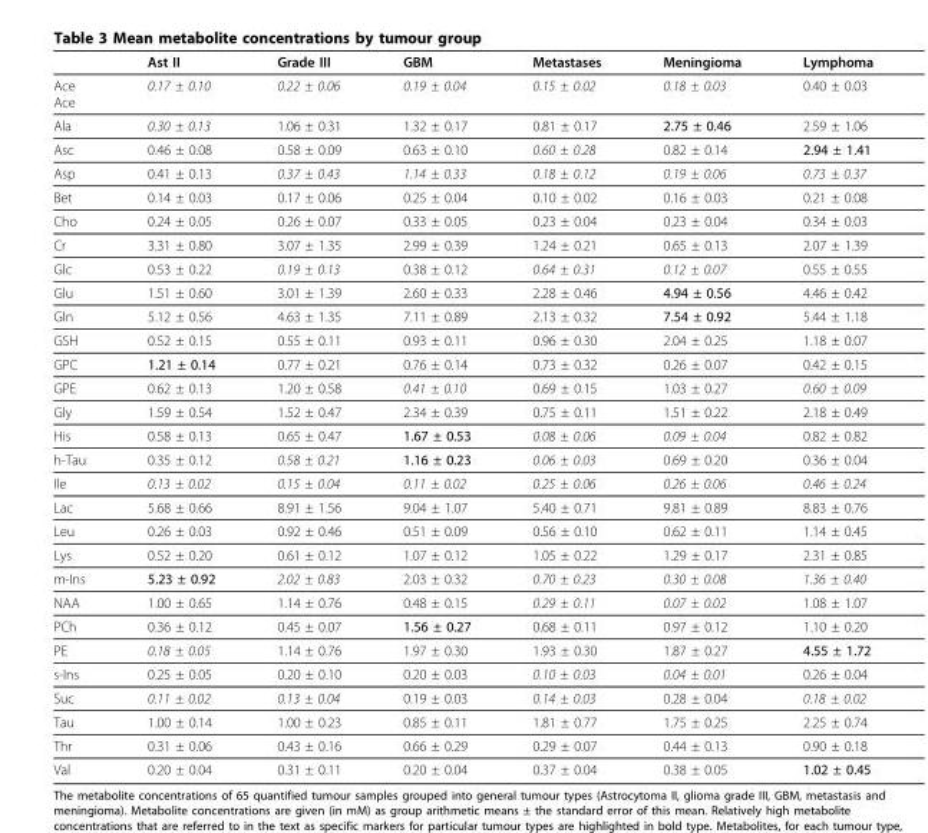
<table><thead><tr><td></td><td>Ast II</td><td>Grade III</td><td>GBM</td><td>Metastases</td><td>Meningioma</td><td>Lymphoma</td></tr></thead><tbody><tr><td>Ace Ace</td><td>0.17 ± 0.10</td><td>0.22 ± 0.06</td><td>0.19 ± 0.04</td><td>0.15 ± 0.02</td><td>0.18 ± 0.03</td><td>0.40 ± 0.03</td></tr><tr><td>Ala</td><td>0.30 ± 0.13</td><td>1.06 ± 0.31</td><td>1.32 ± 0.17</td><td>0.81 ± 0.17</td><td>2.75 ± 0.46</td><td>2.59 ± 1.06</td></tr><tr><td>Asc</td><td>0.46 ± 0.08</td><td>0.58 ± 0.09</td><td>0.63 ± 0.10</td><td>0.60 ± 0.28</td><td>0.82 ± 0.14</td><td>2.94 ± 1.41</td></tr><tr><td>Asp</td><td>0.41 ± 0.13</td><td>0.37 ± 0.43</td><td>1.14 ± 0.33</td><td>0.18 ± 0.12</td><td>0.19 ± 0.06</td><td>0.73 ± 0.37</td></tr><tr><td>Bet</td><td>0.14 ± 0.03</td><td>0.17 ± 0.06</td><td>0.25 ± 0.04</td><td>0.10 ± 0.02</td><td>0.16 ± 0.03</td><td>0.21 ± 0.08</td></tr><tr><td>Cho</td><td>0.24 ± 0.05</td><td>0.26 ± 0.07</td><td>0.33 ± 0.05</td><td>0.23 ± 0.04</td><td>0.23 ± 0.04</td><td>0.34 ± 0.03</td></tr><tr><td>Cr</td><td>3.31 ± 0.80</td><td>3.07 ± 1.35</td><td>2.99 ± 0.39</td><td>1.24 ± 0.21</td><td>0.65 ± 0.13</td><td>2.07 ± 1.39</td></tr><tr><td>Glc</td><td>0.53 ± 0.22</td><td>0.19 ± 0.13</td><td>0.38 ± 0.12</td><td>0.64 ± 0.31</td><td>0.12 ± 0.07</td><td>0.55 ± 0.55</td></tr><tr><td>Glu</td><td>1.51 ± 0.60</td><td>3.01 ± 1.39</td><td>2.60 ± 0.33</td><td>2.28 ± 0.46</td><td>4.94 ± 0.56</td><td>4.46 ± 0.42</td></tr><tr><td>Gln</td><td>5.12 ± 0.56</td><td>4.63 ± 1.35</td><td>7.11 ± 0.89</td><td>2.13 ± 0.32</td><td>7.54 ± 0.92</td><td>5.44 ± 1.18</td></tr><tr><td>GSH</td><td>0.52 ± 0.15</td><td>0.55 ± 0.11</td><td>0.93 ± 0.11</td><td>0.96 ± 0.30</td><td>2.04 ± 0.25</td><td>1.18 ± 0.07</td></tr><tr><td>GPC</td><td>1.21 ± 0.14</td><td>0.77 ± 0.21</td><td>0.76 ± 0.14</td><td>0.73 ± 0.32</td><td>0.26 ± 0.07</td><td>0.42 ± 0.15</td></tr><tr><td>GPE</td><td>0.62 ± 0.13</td><td>1.20 ± 0.58</td><td>0.41 ± 0.10</td><td>0.69 ± 0.15</td><td>1.03 ± 0.27</td><td>0.60 ± 0.09</td></tr><tr><td>Gly</td><td>1.59 ± 0.54</td><td>1.52 ± 0.47</td><td>2.34 ± 0.39</td><td>0.75 ± 0.11</td><td>1.51 ± 0.22</td><td>2.18 ± 0.49</td></tr><tr><td>His</td><td>0.58 ± 0.13</td><td>0.65 ± 0.47</td><td>1.67 ± 0.53</td><td>0.08 ± 0.06</td><td>0.09 ± 0.04</td><td>0.82 ± 0.82</td></tr><tr><td>h-Tau</td><td>0.35 ± 0.12</td><td>0.58 ± 0.21</td><td>1.16 ± 0.23</td><td>0.06 ± 0.03</td><td>0.69 ± 0.20</td><td>0.36 ± 0.04</td></tr><tr><td>Ile</td><td>0.13 ± 0.02</td><td>0.15 ± 0.04</td><td>0.11 ± 0.02</td><td>0.25 ± 0.06</td><td>0.26 ± 0.06</td><td>0.46 ± 0.24</td></tr><tr><td>Lac</td><td>5.68 ± 0.66</td><td>8.91 ± 1.56</td><td>9.04 ± 1.07</td><td>5.40 ± 0.71</td><td>9.81 ± 0.89</td><td>8.83 ± 0.76</td></tr><tr><td>Leu</td><td>0.26 ± 0.03</td><td>0.92 ± 0.46</td><td>0.51 ± 0.09</td><td>0.56 ± 0.10</td><td>0.62 ± 0.11</td><td>1.14 ± 0.45</td></tr><tr><td>Lys</td><td>0.52 ± 0.20</td><td>0.61 ± 0.12</td><td>1.07 ± 0.12</td><td>1.05 ± 0.22</td><td>1.29 ± 0.17</td><td>2.31 ± 0.85</td></tr><tr><td>m-Ins</td><td>5.23 ± 0.92</td><td>2.02 ± 0.83</td><td>2.03 ± 0.32</td><td>0.70 ± 0.23</td><td>0.30 ± 0.08</td><td>1.36 ± 0.40</td></tr><tr><td>NAA</td><td>1.00 ± 0.65</td><td>1.14 ± 0.76</td><td>0.48 ± 0.15</td><td>0.29 ± 0.11</td><td>0.07 ± 0.02</td><td>1.08 ± 1.07</td></tr><tr><td>PCh</td><td>0.36 ± 0.12</td><td>0.45 ± 0.07</td><td>1.56 ± 0.27</td><td>0.68 ± 0.11</td><td>0.97 ± 0.12</td><td>1.10 ± 0.20</td></tr><tr><td>PE</td><td>0.18 ± 0.05</td><td>1.14 ± 0.76</td><td>1.97 ± 0.30</td><td>1.93 ± 0.30</td><td>1.87 ± 0.27</td><td>4.55 ± 1.72</td></tr><tr><td>s-Ins</td><td>0.25 ± 0.05</td><td>0.20 ± 0.10</td><td>0.20 ± 0.03</td><td>0.10 ± 0.03</td><td>0.04 ± 0.01</td><td>0.26 ± 0.04</td></tr><tr><td>Suc</td><td>0.11 ± 0.02</td><td>0.13 ± 0.04</td><td>0.19 ± 0.03</td><td>0.14 ± 0.03</td><td>0.28 ± 0.04</td><td>0.18 ± 0.02</td></tr><tr><td>Tau</td><td>1.00 ± 0.14</td><td>1.00 ± 0.23</td><td>0.85 ± 0.11</td><td>1.81 ± 0.77</td><td>1.75 ± 0.25</td><td>2.25 ± 0.74</td></tr><tr><td>Thr</td><td>0.31 ± 0.06</td><td>0.43 ± 0.16</td><td>0.66 ± 0.29</td><td>0.29 ± 0.07</td><td>0.44 ± 0.13</td><td>0.90 ± 0.18</td></tr><tr><td>Val</td><td>0.20 ± 0.04</td><td>0.31 ± 0.11</td><td>0.20 ± 0.04</td><td>0.37 ± 0.04</td><td>0.38 ± 0.05</td><td>1.02 ± 0.45</td></tr></tbody></table>